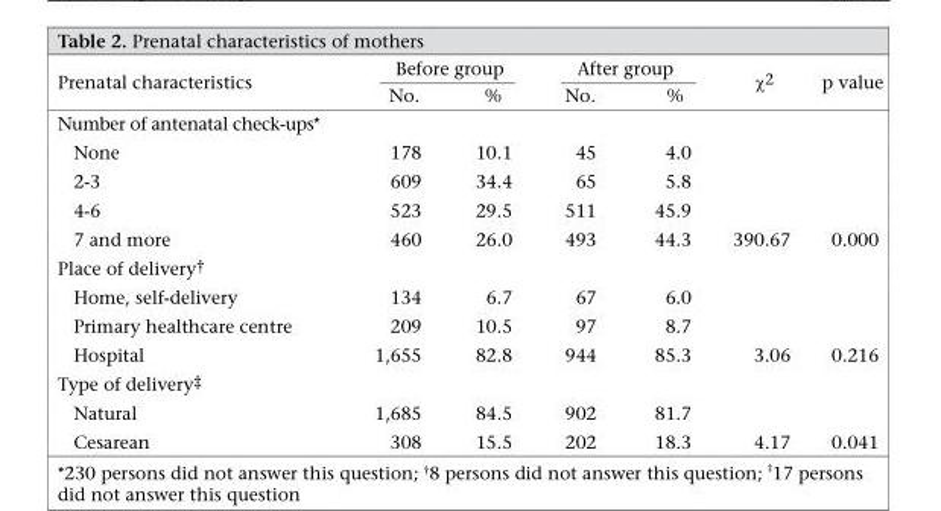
<table><thead><tr><td rowspan="2">Prenatal characteristics</td><td colspan="2">Before group</td><td colspan="2">After group</td><td rowspan="2">χ2</td><td rowspan="2">p value</td></tr><tr><td>No.</td><td>%</td><td>No.</td><td>%</td></tr></thead><tbody><tr><td colspan="7">Number of antenatal check-ups*</td></tr><tr><td>None</td><td>178</td><td>10.1</td><td>45</td><td>4.0</td><td></td><td></td></tr><tr><td>2-3</td><td>609</td><td>34.4</td><td>65</td><td>5.8</td><td></td><td></td></tr><tr><td>4-6</td><td>523</td><td>29.5</td><td>511</td><td>45.9</td><td></td><td></td></tr><tr><td>7 and more</td><td>460</td><td>26.0</td><td>493</td><td>44.3</td><td>390.67</td><td>0.000</td></tr><tr><td colspan="7">Place of delivery†</td></tr><tr><td>Home, self-delivery</td><td>134</td><td>6.7</td><td>67</td><td>6.0</td><td></td><td></td></tr><tr><td>Primary healthcare centre</td><td>209</td><td>10.5</td><td>97</td><td>8.7</td><td></td><td></td></tr><tr><td>Hospital</td><td>1,655</td><td>82.8</td><td>944</td><td>85.3</td><td>3.06</td><td>0.216</td></tr><tr><td colspan="7">Type of delivery‡</td></tr><tr><td>Natural</td><td>1,685</td><td>84.5</td><td>902</td><td>81.7</td><td></td><td></td></tr><tr><td>Cesarean</td><td>308</td><td>15.5</td><td>202</td><td>18.3</td><td>4.17</td><td>0.041</td></tr></tbody></table>